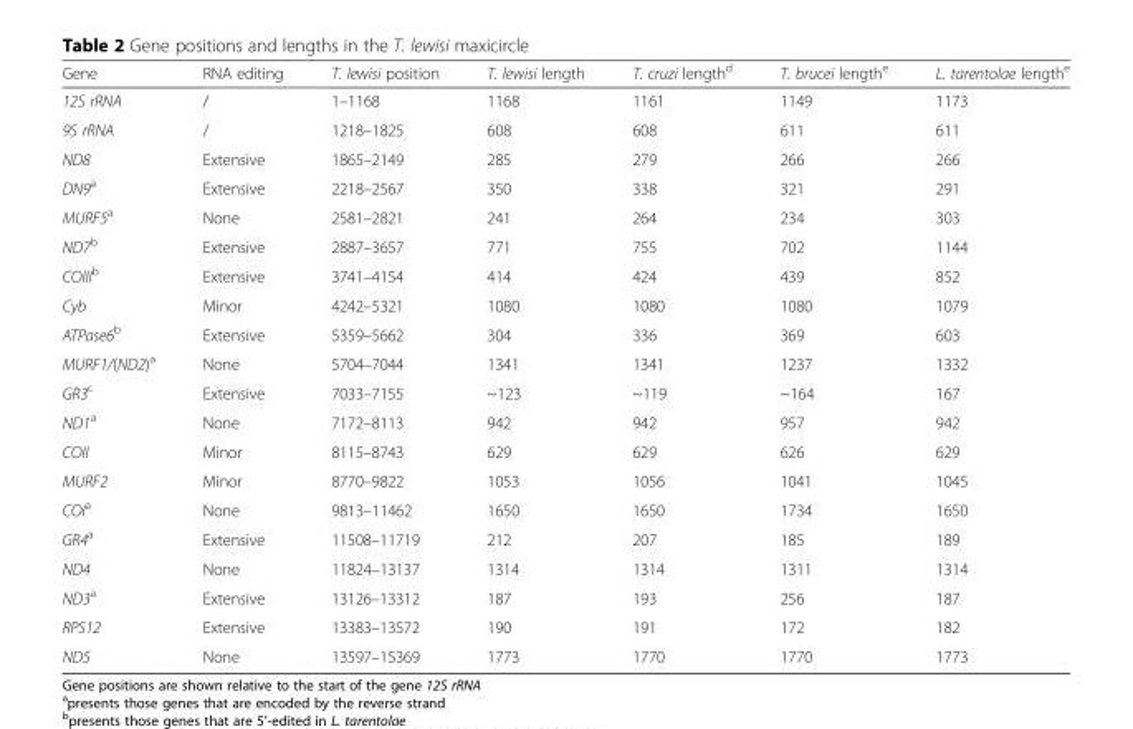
<table><thead><tr><td>Gene</td><td>RNA editing</td><td>T. lewisi position</td><td>T. lewisi length</td><td>T. cruzi length<sup>d</sup></td><td>T. brucei length<sup>e</sup></td><td>L. tarentolae length<sup>e</sup></td></tr></thead><tbody><tr><td>12S rRNA</td><td>/</td><td>1–1168</td><td>1168</td><td>1161</td><td>1149</td><td>1173</td></tr><tr><td>9S rRNA</td><td>/</td><td>1218–1825</td><td>608</td><td>608</td><td>611</td><td>611</td></tr><tr><td>ND8</td><td>Extensive</td><td>1865–2149</td><td>285</td><td>279</td><td>266</td><td>266</td></tr><tr><td>DN9<sup>a</sup></td><td>Extensive</td><td>2218–2567</td><td>350</td><td>338</td><td>321</td><td>291</td></tr><tr><td>MURF5<sup>a</sup></td><td>None</td><td>2581–2821</td><td>241</td><td>264</td><td>234</td><td>303</td></tr><tr><td>ND7<sup>b</sup></td><td>Extensive</td><td>2887–3657</td><td>771</td><td>755</td><td>702</td><td>1144</td></tr><tr><td>COIII<sup>b</sup></td><td>Extensive</td><td>3741–4154</td><td>414</td><td>424</td><td>439</td><td>852</td></tr><tr><td>Cyb</td><td>Minor</td><td>4242–5321</td><td>1080</td><td>1080</td><td>1080</td><td>1079</td></tr><tr><td>ATPase6<sup>b</sup></td><td>Extensive</td><td>5359–5662</td><td>304</td><td>336</td><td>369</td><td>603</td></tr><tr><td>MURF1/(ND2)<sup>a</sup></td><td>None</td><td>5704–7044</td><td>1341</td><td>1341</td><td>1237</td><td>1332</td></tr><tr><td>GR3<sup>c</sup></td><td>Extensive</td><td>7033–7155</td><td>~123</td><td>~119</td><td>~164</td><td>167</td></tr><tr><td>ND1<sup>a</sup></td><td>None</td><td>7172–8113</td><td>942</td><td>942</td><td>957</td><td>942</td></tr><tr><td>COII</td><td>Minor</td><td>8115–8743</td><td>629</td><td>629</td><td>626</td><td>629</td></tr><tr><td>MURF2</td><td>Minor</td><td>8770–9822</td><td>1053</td><td>1056</td><td>1041</td><td>1045</td></tr><tr><td>COI<sup>a</sup></td><td>None</td><td>9813–11462</td><td>1650</td><td>1650</td><td>1734</td><td>1650</td></tr><tr><td>GR4<sup>a</sup></td><td>Extensive</td><td>11508–11719</td><td>212</td><td>207</td><td>185</td><td>189</td></tr><tr><td>ND4</td><td>None</td><td>11824–13137</td><td>1314</td><td>1314</td><td>1311</td><td>1314</td></tr><tr><td>ND3<sup>a</sup></td><td>Extensive</td><td>13126–13312</td><td>187</td><td>193</td><td>256</td><td>187</td></tr><tr><td>RPS12</td><td>Extensive</td><td>13383–13572</td><td>190</td><td>191</td><td>172</td><td>182</td></tr><tr><td>ND5</td><td>None</td><td>13597–15369</td><td>1773</td><td>1770</td><td>1770</td><td>1773</td></tr></tbody></table>